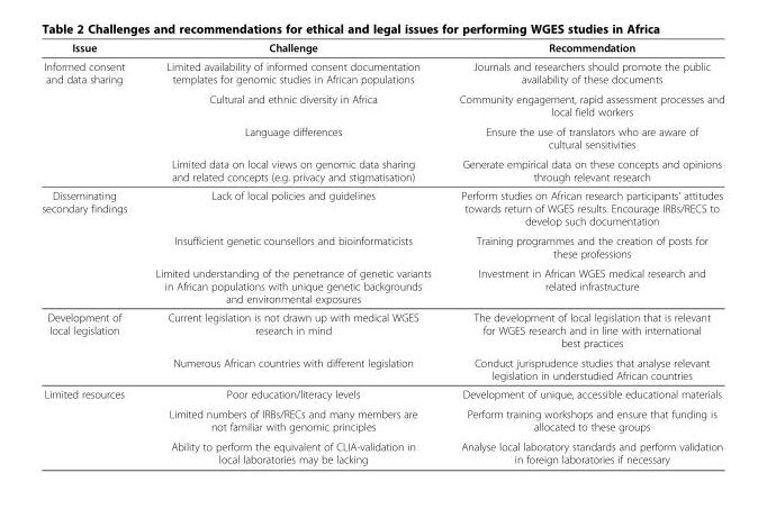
<table><thead><tr><td>Issue</td><td>Challenge</td><td>Recommendation</td></tr></thead><tbody><tr><td rowspan="4">Informed consent and data sharing</td><td>Limited availability of informed consent documentation templates for genomic studies in African populations</td><td>Journals and researchers should promote the public availability of these documents</td></tr><tr><td>Cultural and ethnic diversity in Africa</td><td>Community engagement, rapid assessment processes and local field workers</td></tr><tr><td>Language differences</td><td>Ensure the use of translators who are aware of cultural sensitivities</td></tr><tr><td>Limited data on local views on genomic data sharing and related concepts (e.g. privacy and stigmatisation)</td><td>Generate empirical data on these concepts and opinions through relevant research</td></tr><tr><td rowspan="3">Disseminating secondary findings</td><td>Lack of local policies and guidelines</td><td>Perform studies on African research participants’ attitudes towards return of WGES results. Encourage IRBs/RECS to develop such documentation</td></tr><tr><td>Insufficient genetic counsellors and bioinformaticists</td><td>Training programmes and the creation of posts for these professions</td></tr><tr><td>Limited understanding of the penetrance of genetic variants in African populations with unique genetic backgrounds and environmental exposures</td><td>Investment in African WGES medical research and related infrastructure</td></tr><tr><td rowspan="2">Development of local legislation</td><td>Current legislation is not drawn up with medical WGES research in mind</td><td>The development of local legislation that is relevant for WGES research and in line with international best practices</td></tr><tr><td>Numerous African countries with different legislation</td><td>Conduct jurisprudence studies that analyse relevant legislation in understudied African countries</td></tr><tr><td rowspan="3">Limited resources</td><td>Poor education/literacy levels</td><td>Development of unique, accessible educational materials</td></tr><tr><td>Limited numbers of IRBs/RECs and many members are not familiar with genomic principles</td><td>Perform training workshops and ensure that funding is allocated to these groups</td></tr><tr><td>Ability to perform the equivalent of CLIA-validation in local laboratories may be lacking</td><td>Analyse local laboratory standards and perform validation in foreign laboratories if necessary</td></tr></tbody></table>